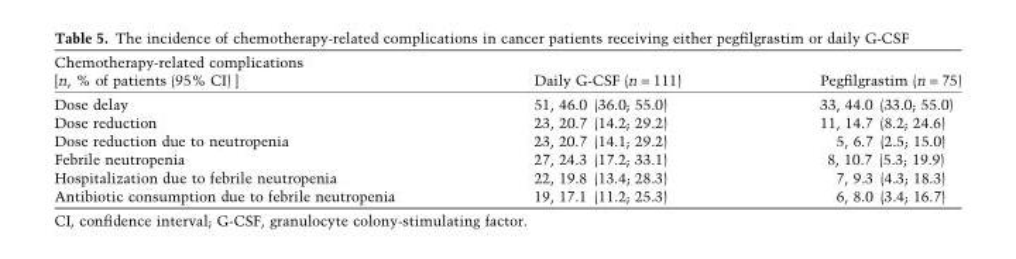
<table><thead><tr><td>Chemotherapy-related complications [n, % of patients (95% CI) ]</td><td>Daily G-CSF (n = 111)</td><td>Pegfilgrastim (n = 75)</td></tr></thead><tbody><tr><td>Dose delay</td><td>51, 46.0 (36.0; 55.0)</td><td>33, 44.0 (33.0; 55.0)</td></tr><tr><td>Dose reduction</td><td>23, 20.7 (14.2; 29.2)</td><td>11, 14.7 (8.2; 24.6)</td></tr><tr><td>Dose reduction due to neutropenia</td><td>23, 20.7 (14.1; 29.2)</td><td>5, 6.7 (2.5; 15.0)</td></tr><tr><td>Febrile neutropenia</td><td>27, 24.3 (17.2; 33.1)</td><td>8, 10.7 (5.3; 19.9)</td></tr><tr><td>Hospitalization due to febrile neutropenia</td><td>22, 19.8 (13.4; 28.3)</td><td>7, 9.3 (4.3; 18.3)</td></tr><tr><td>Antibiotic consumption due to febrile neutropenia</td><td>19, 17.1 (11.2; 25.3)</td><td>6, 8.0 (3.4; 16.7)</td></tr></tbody></table>